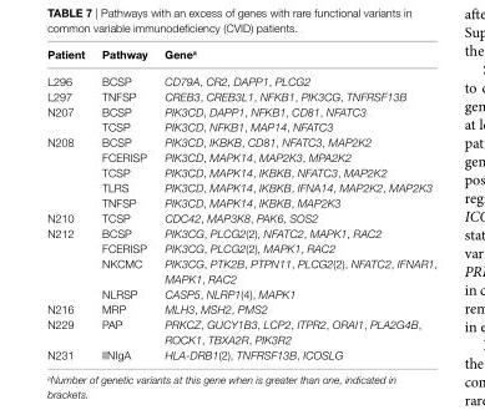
<table><thead><tr><td>Patient</td><td>Pathway</td><td>gene<sup>a</sup></td></tr></thead><tbody><tr><td>L296</td><td>BCSP</td><td>CD79A, CR2, DAPP1, PLCG2</td></tr><tr><td>L297</td><td>TNFSP</td><td>CREB3, CREB3L1, NFKB1, PIK3CG, TNFRSF13B</td></tr><tr><td rowspan="2">N207</td><td>BCSP</td><td>PIK3CD, DAPP1, NFKB1, CD81, NFATC3</td></tr><tr><td>TCSP</td><td>PIK3CD, NFKB1, MAP14, NFATC3</td></tr><tr><td rowspan="5">N208</td><td>BCSP</td><td>PIK3CD, IKBKB, CD81, NFATC3, MAP2K2</td></tr><tr><td>FCERISP</td><td>PIK3CD, MAPK14, MAP2K3, MPA2K2</td></tr><tr><td>TCSP</td><td>PIK3CD, MAPK14, IKBKB, NFATC3, MAP2K2</td></tr><tr><td>TLRS</td><td>PIK3CD, MAPK14, IKBKB, IFNA14, MAP2K2, MAP2K3</td></tr><tr><td>TNFSP</td><td>PIK3CD, MAPK14, IKBKB, MAP2K3</td></tr><tr><td>N210</td><td>TCSP</td><td>CDC42, MAP3K8, PAK6, SOS2</td></tr><tr><td rowspan="4">N212</td><td>BCSP</td><td>PIK3CG, PLCG2(2), NFATC2, MAPK1, RAC2</td></tr><tr><td>FCERISP</td><td>PIK3CG, PLCG2(2), MAPK1, RAC2</td></tr><tr><td>NKCMC</td><td>PIK3CG, PTK2B, PTPN11, PLCG2(2), NFATC2, IFNAR1, MAPK1, RAC2</td></tr><tr><td>NLRSP</td><td>CASP5, NLRP1(4), MAPK1</td></tr><tr><td>N216</td><td>MRP</td><td>MLH3, MSH2, PMS2</td></tr><tr><td>N229</td><td>PAP</td><td>PRKCZ, GUCY1B3, LCP2, ITPR2, ORAI1, PLA2G4B, ROCK1, TBXA2R, PIK3R2</td></tr><tr><td>N231</td><td>IINIgA</td><td>HLA-DRB1(2), TNFRSF13B, ICOSLG</td></tr></tbody></table>